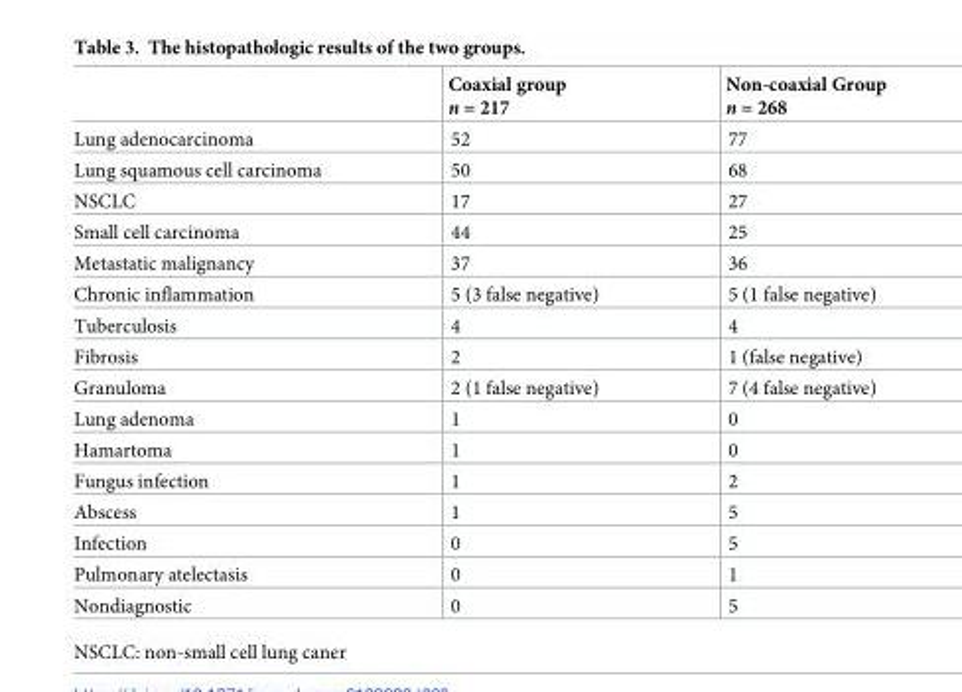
<table><thead><tr><td></td><td>Coaxial group n = 217</td><td>Non-coaxial Group n = 268</td></tr></thead><tbody><tr><td>Lung adenocarcinoma</td><td>52</td><td>77</td></tr><tr><td>Lung squamous cell carcinoma</td><td>50</td><td>68</td></tr><tr><td>NSCLC</td><td>17</td><td>27</td></tr><tr><td>Small cell carcinoma</td><td>44</td><td>25</td></tr><tr><td>Metastatic malignancy</td><td>37</td><td>36</td></tr><tr><td>Chronic inflammation</td><td>5 (3 false negative)</td><td>5 (1 false negative)</td></tr><tr><td>Tuberculosis</td><td>4</td><td>4</td></tr><tr><td>Fibrosis</td><td>2</td><td>1 (false negative)</td></tr><tr><td>Granuloma</td><td>2 (1 false negative)</td><td>7 (4 false negative)</td></tr><tr><td>Lung adenoma</td><td>1</td><td>0</td></tr><tr><td>Hamartoma</td><td>1</td><td>0</td></tr><tr><td>Fungus infection</td><td>1</td><td>2</td></tr><tr><td>Abscess</td><td>1</td><td>5</td></tr><tr><td>Infection</td><td>0</td><td>5</td></tr><tr><td>Pulmonary atelectasis</td><td>0</td><td>1</td></tr><tr><td>Nondiagnostic</td><td>0</td><td>5</td></tr></tbody></table>